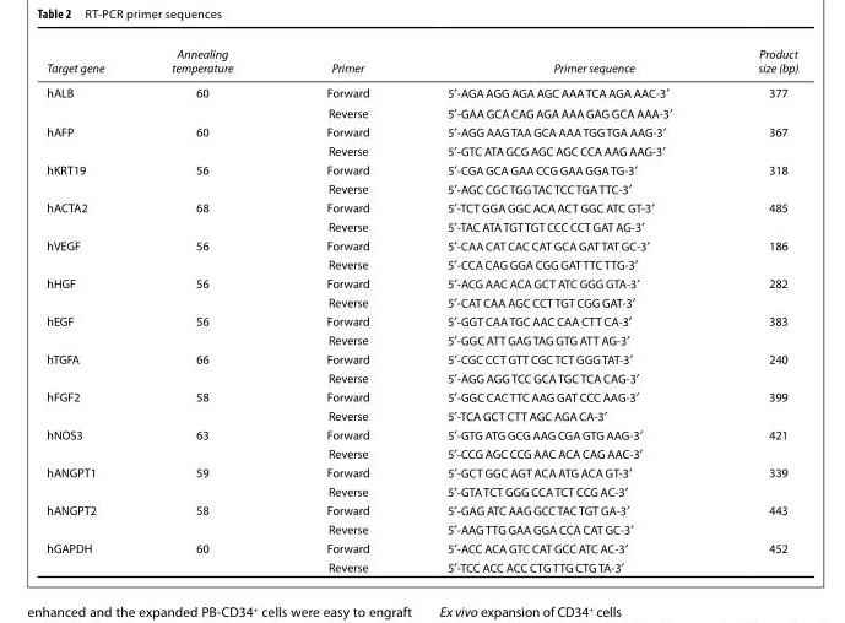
<table><thead><tr><td>Target gene</td><td>Annealing temperature</td><td>Primer</td><td>Primer sequence</td><td>Product size (bp)</td></tr></thead><tbody><tr><td rowspan="2">hALB</td><td>60</td><td>Forward</td><td>5′-AGA AGG AGA AGC AAA TCA AGA AAC-3′</td><td>377</td></tr><tr><td></td><td>Reverse</td><td>5′-GAA GCA CAG AGA AAA GAG GCA AAA-3′</td><td></td></tr><tr><td rowspan="2">hAFP</td><td>60</td><td>Forward</td><td>5′-AGG AAG TAA GCA AAA TGG TGA AAG-3′</td><td>367</td></tr><tr><td></td><td>Reverse</td><td>5′-GTC ATA GCG AGC AGC CCA AAG AAG-3′</td><td></td></tr><tr><td rowspan="2">hKRT19</td><td>56</td><td>Forward</td><td>5′-CGA GCA GAA CCG GAA GGA TG-3′</td><td>318</td></tr><tr><td></td><td>Reverse</td><td>5′-AGC CGC TGG TAC TCC TGA TTC-3′</td><td></td></tr><tr><td rowspan="2">hACTA2</td><td>68</td><td>Forward</td><td>5′-TCT GGA GGC ACA ACT GGC ATC GT-3′</td><td>485</td></tr><tr><td></td><td>Reverse</td><td>5′-TAC ATA TGT TGT CCC CCT GAT AG-3′</td><td></td></tr><tr><td rowspan="2">hVEGF</td><td>56</td><td>Forward</td><td>5′-CAA CAT CAC CAT GCA GAT TAT GC-3′</td><td>186</td></tr><tr><td></td><td>Reverse</td><td>5′-CCA CAG GGA CGG GAT TTC TTG-3′</td><td></td></tr><tr><td rowspan="2">hHGF</td><td>56</td><td>Forward</td><td>5′-ACG AAC ACA GCT ATC GGG GTA-3′</td><td>282</td></tr><tr><td></td><td>Reverse</td><td>5′-CAT CAA AGC CCT TGT CGG GAT-3′</td><td></td></tr><tr><td rowspan="2">hEGF</td><td>56</td><td>Forward</td><td>5′-GGT CAA TGC AAC CAA CTT CA-3′</td><td>383</td></tr><tr><td></td><td>Reverse</td><td>5′-GGC ATT GAG TAG GTG ATT AG-3′</td><td></td></tr><tr><td rowspan="2">hTGFA</td><td>66</td><td>Forward</td><td>5′-CGC CCT GTT CGC TCT GGG TAT-3′</td><td>240</td></tr><tr><td></td><td>Reverse</td><td>5′-AGG AGG TCC GCA TGC TCA CAG-3′</td><td></td></tr><tr><td rowspan="2">hFGF2</td><td>58</td><td>Forward</td><td>5′-GGC CAC TTC AAG GAT CCC AAG-3′</td><td>399</td></tr><tr><td></td><td>Reverse</td><td>5′-TCA GCT CTT AGC AGA CA-3′</td><td></td></tr><tr><td rowspan="2">hNOS3</td><td>63</td><td>Forward</td><td>5′-GTG ATG GCG AAG CGA GTG AAG-3′</td><td>421</td></tr><tr><td></td><td>Reverse</td><td>5′-CCG AGC CCG AAC ACA CAG AAC-3′</td><td></td></tr><tr><td rowspan="2">hANGPT1</td><td>59</td><td>Forward</td><td>5′-GCT GGC AGT ACA ATG ACA GT-3′</td><td>339</td></tr><tr><td></td><td>Reverse</td><td>5′-GTA TCT GGG CCA TCT CCG AC-3′</td><td></td></tr><tr><td rowspan="2">hANGPT2</td><td>58</td><td>Forward</td><td>5′-GAG ATC AAG GCC TAC TGT GA-3′</td><td>443</td></tr><tr><td></td><td>Reverse</td><td>5′-AAG TTG GAA GGA CCA CAT GC-3′</td><td></td></tr><tr><td rowspan="2">hGAPDH</td><td>60</td><td>Forward</td><td>5′-ACC ACA GTC CAT GCC ATC AC-3′</td><td>452</td></tr><tr><td></td><td>Reverse</td><td>5′-TCC ACC ACC CTG TTG CTG TA-3′</td><td></td></tr></tbody></table>